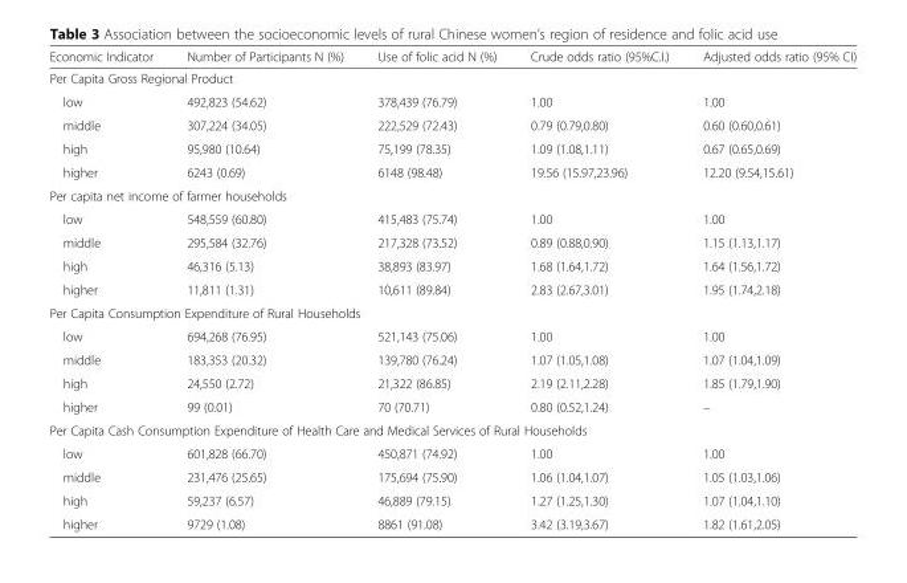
<table><thead><tr><td>Economic Indicator</td><td>Number of Participants N (%)</td><td>Use of folic acid N (%)</td><td>Crude odds ratio (95%C.I.)</td><td>Adjusted odds ratio (95% CI)</td></tr></thead><tbody><tr><td colspan="5">Per Capita Gross Regional Product</td></tr><tr><td>low</td><td>492,823 (54.62)</td><td>378,439 (76.79)</td><td>1.00</td><td>1.00</td></tr><tr><td>middle</td><td>307,224 (34.05)</td><td>222,529 (72.43)</td><td>0.79 (0.79,0.80)</td><td>0.60 (0.60,0.61)</td></tr><tr><td>high</td><td>95,980 (10.64)</td><td>75,199 (78.35)</td><td>1.09 (1.08,1.11)</td><td>0.67 (0.65,0.69)</td></tr><tr><td>higher</td><td>6243 (0.69)</td><td>6148 (98.48)</td><td>19.56 (15.97,23.96)</td><td>12.20 (9.54,15.61)</td></tr><tr><td colspan="5">Per capita net income of farmer households</td></tr><tr><td>low</td><td>548,559 (60.80)</td><td>415,483 (75.74)</td><td>1.00</td><td>1.00</td></tr><tr><td>middle</td><td>295,584 (32.76)</td><td>217,328 (73.52)</td><td>0.89 (0.88,0.90)</td><td>1.15 (1.13,1.17)</td></tr><tr><td>high</td><td>46,316 (5.13)</td><td>38,893 (83.97)</td><td>1.68 (1.64,1.72)</td><td>1.64 (1.56,1.72)</td></tr><tr><td>higher</td><td>11,811 (1.31)</td><td>10,611 (89.84)</td><td>2.83 (2.67,3.01)</td><td>1.95 (1.74,2.18)</td></tr><tr><td colspan="5">Per Capita Consumption Expenditure of Rural Households</td></tr><tr><td>low</td><td>694,268 (76.95)</td><td>521,143 (75.06)</td><td>1.00</td><td>1.00</td></tr><tr><td>middle</td><td>183,353 (20.32)</td><td>139,780 (76.24)</td><td>1.07 (1.05,1.08)</td><td>1.07 (1.04,1.09)</td></tr><tr><td>high</td><td>24,550 (2.72)</td><td>21,322 (86.85)</td><td>2.19 (2.11,2.28)</td><td>1.85 (1.79,1.90)</td></tr><tr><td>higher</td><td>99 (0.01)</td><td>70 (70.71)</td><td>0.80 (0.52,1.24)</td><td>–</td></tr><tr><td colspan="5">Per Capita Cash Consumption Expenditure of Health Care and Medical Services of Rural Households</td></tr><tr><td>low</td><td>601,828 (66.70)</td><td>450,871 (74.92)</td><td>1.00</td><td>1.00</td></tr><tr><td>middle</td><td>231,476 (25.65)</td><td>175,694 (75.90)</td><td>1.06 (1.04,1.07)</td><td>1.05 (1.03,1.06)</td></tr><tr><td>high</td><td>59,237 (6.57)</td><td>46,889 (79.15)</td><td>1.27 (1.25,1.30)</td><td>1.07 (1.04,1.10)</td></tr><tr><td>higher</td><td>9729 (1.08)</td><td>8861 (91.08)</td><td>3.42 (3.19,3.67)</td><td>1.82 (1.61,2.05)</td></tr></tbody></table>